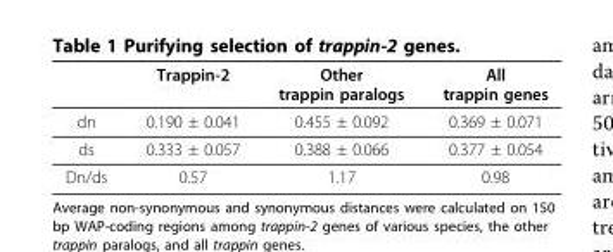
<table><thead><tr><td></td><td>Trappin-2</td><td>Other trappin paralogs</td><td>All trappin genes</td></tr></thead><tbody><tr><td>dn</td><td>0.190 ± 0.041</td><td>0.455 ± 0.092</td><td>0.369 ± 0.071</td></tr><tr><td>ds</td><td>0.333 ± 0.057</td><td>0.388 ± 0.066</td><td>0.377 ± 0.054</td></tr><tr><td>Dn/ds</td><td>0.57</td><td>1.17</td><td>0.98</td></tr></tbody></table>